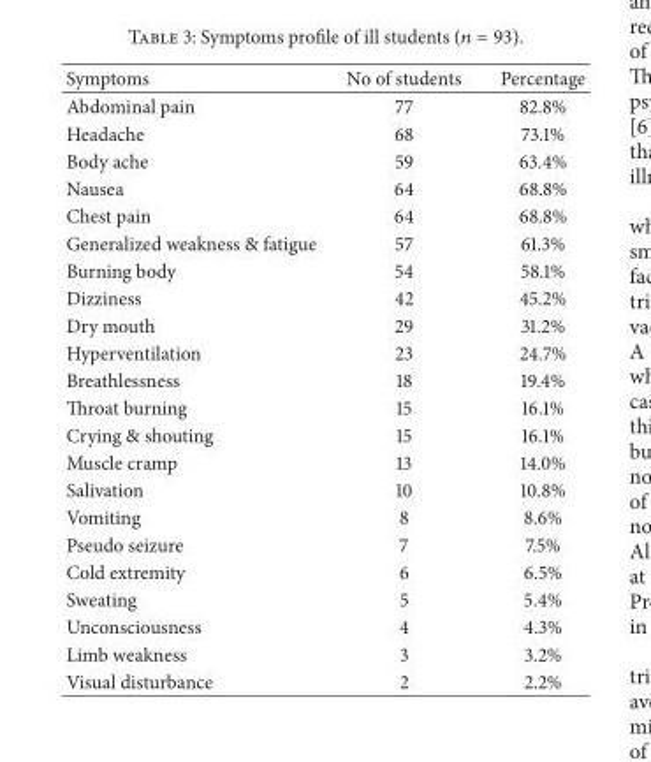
<table><thead><tr><td>Symptoms</td><td>No of students</td><td>Percentage</td></tr></thead><tbody><tr><td>Abdominal pain</td><td>77</td><td>82.8%</td></tr><tr><td>Headache</td><td>68</td><td>73.1%</td></tr><tr><td>Body ache</td><td>59</td><td>63.4%</td></tr><tr><td>Nausea</td><td>64</td><td>68.8%</td></tr><tr><td>Chest pain</td><td>64</td><td>68.8%</td></tr><tr><td>Generalized weakness &amp; fatigue</td><td>57</td><td>61.3%</td></tr><tr><td>Burning body</td><td>54</td><td>58.1%</td></tr><tr><td>Dizziness</td><td>42</td><td>45.2%</td></tr><tr><td>Dry mouth</td><td>29</td><td>31.2%</td></tr><tr><td>Hyperventilation</td><td>23</td><td>24.7%</td></tr><tr><td>Breathlessness</td><td>18</td><td>19.4%</td></tr><tr><td>Throat burning</td><td>15</td><td>16.1%</td></tr><tr><td>Crying &amp; shouting</td><td>15</td><td>16.1%</td></tr><tr><td>Muscle cramp</td><td>13</td><td>14.0%</td></tr><tr><td>Salivation</td><td>10</td><td>10.8%</td></tr><tr><td>Vomiting</td><td>8</td><td>8.6%</td></tr><tr><td>Pseudo seizure</td><td>7</td><td>7.5%</td></tr><tr><td>Cold extremity</td><td>6</td><td>6.5%</td></tr><tr><td>Sweating</td><td>5</td><td>5.4%</td></tr><tr><td>Unconsciousness</td><td>4</td><td>4.3%</td></tr><tr><td>Limb weakness</td><td>3</td><td>3.2%</td></tr><tr><td>Visual disturbance</td><td>2</td><td>2.2%</td></tr></tbody></table>